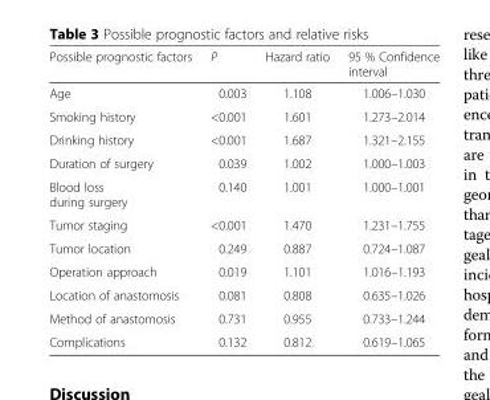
<table><thead><tr><td>Possible prognostic factors</td><td>P</td><td>Hazard ratio</td><td>95 % Confidence interval</td></tr></thead><tbody><tr><td>Age</td><td>0.003</td><td>1.108</td><td>1.006–1.030</td></tr><tr><td>Smoking history</td><td>&lt;0.001</td><td>1.601</td><td>1.273–2.014</td></tr><tr><td>Drinking history</td><td>&lt;0.001</td><td>1.687</td><td>1.321–2.155</td></tr><tr><td>Duration of surgery</td><td>0.039</td><td>1.002</td><td>1.000–1.003</td></tr><tr><td>Blood loss during surgery</td><td>0.140</td><td>1.001</td><td>1.000–1.001</td></tr><tr><td>Tumor staging</td><td>&lt;0.001</td><td>1.470</td><td>1.231–1.755</td></tr><tr><td>Tumor location</td><td>0.249</td><td>0.887</td><td>0.724–1.087</td></tr><tr><td>Operation approach</td><td>0.019</td><td>1.101</td><td>1.016–1.193</td></tr><tr><td>Location of anastomosis</td><td>0.081</td><td>0.808</td><td>0.635–1.026</td></tr><tr><td>Method of anastomosis</td><td>0.731</td><td>0.955</td><td>0.733–1.244</td></tr><tr><td>Complications</td><td>0.132</td><td>0.812</td><td>0.619–1.065</td></tr></tbody></table>